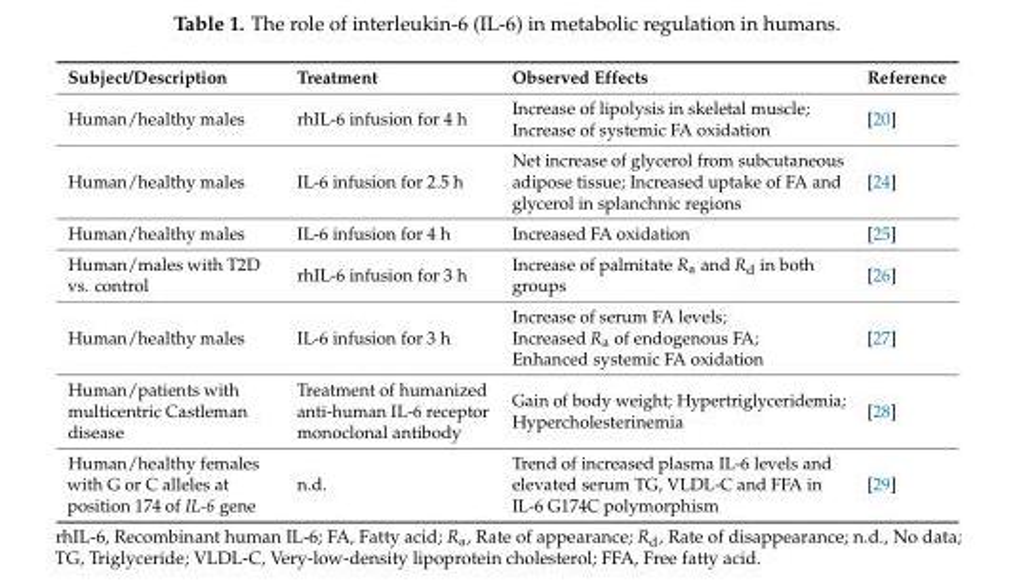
<table><thead><tr><td>Subject/Description</td><td>Treatment</td><td>Observed Effects</td><td>Reference</td></tr></thead><tbody><tr><td>Human/healthy males</td><td>rhIL-6 infusion for 4 h</td><td>Increase of lipolysis in skeletal muscle; Increase of systemic FA oxidation</td><td>[20]</td></tr><tr><td>Human/healthy males</td><td>IL-6 infusion for 2.5 h</td><td>Net increase of glycerol from subcutaneous adipose tissue; Increased uptake of FA and glycerol in splanchnic regions</td><td>[24]</td></tr><tr><td>Human/healthy males</td><td>IL-6 infusion for 4 h</td><td>Increased FA oxidation</td><td>[25]</td></tr><tr><td>Human/males with T2D vs. control</td><td>rhIL-6 infusion for 3 h</td><td>Increase of palmitate R<sub>a</sub> and R<sub>d</sub> in both groups</td><td>[26]</td></tr><tr><td>Human/healthy males</td><td>IL-6 infusion for 3 h</td><td>Increase of serum FA levels; Increased R<sub>a</sub> of endogenous FA; Enhanced systemic FA oxidation</td><td>[27]</td></tr><tr><td>Human/patients with multicentric Castleman disease</td><td>Treatment of humanized anti-human IL-6 receptor monoclonal antibody</td><td>Gain of body weight; Hypertriglyceridemia; Hypercholesterinemia</td><td>[28]</td></tr><tr><td>Human/healthy females with G or C alleles at position 174 of IL-6 gene</td><td>n.d.</td><td>Trend of increased plasma IL-6 levels and elevated serum TG, VLDL-C and FFA in IL-6 G174C polymorphism</td><td>[29]</td></tr></tbody></table>